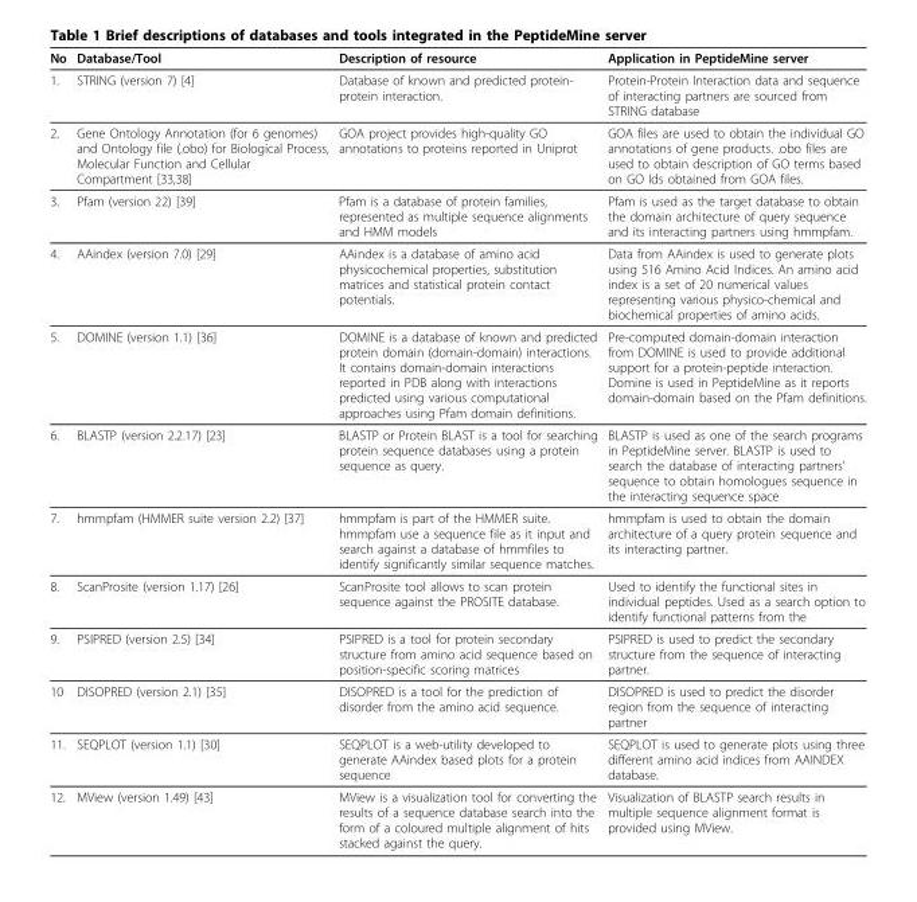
<table><thead><tr><td>No</td><td>Database/Tool</td><td>Description of resource</td><td>Application in PeptideMine server</td></tr></thead><tbody><tr><td>1.</td><td>STRING (version 7) [4]</td><td>Database of known and predicted protein- protein interaction.</td><td>Protein-Protein Interaction data and sequence of interacting partners are sourced from STRING database</td></tr><tr><td>2.</td><td>Gene Ontology Annotation (for 6 genomes) and Ontology file (.obo) for Biological Process, Molecular Function and Cellular Compartment [33,38]</td><td>GOA project provides high-quality GO annotations to proteins reported in Uniprot</td><td>GOA files are used to obtain the individual GO annotations of gene products. .obo files are used to obtain description of GO terms based on GO Ids obtained from GOA files.</td></tr><tr><td>3.</td><td>Pfam (version 22) [39]</td><td>Pfam is a database of protein families, represented as multiple sequence alignments and HMM models</td><td>Pfam is used as the target database to obtain the domain architecture of query sequence and its interacting partners using hmmpfam.</td></tr><tr><td>4.</td><td>AAindex (version 7.0) [29]</td><td>AAindex is a database of amino acid physicochemical properties, substitution matrices and statistical protein contact potentials.</td><td>Data from AAindex is used to generate plots using 516 Amino Acid Indices. An amino acid index is a set of 20 numerical values representing various physico-chemical and biochemical properties of amino acids.</td></tr><tr><td>5.</td><td>DOMINE (version 1.1) [36]</td><td>DOMINE is a database of known and predicted protein domain (domain-domain) interactions. It contains domain-domain interactions reported in PDB along with interactions predicted using various computational approaches using Pfam domain definitions.</td><td>Pre-computed domain-domain interaction from DOMINE is used to provide additional support for a protein-peptide interaction. Domine is used in PeptideMine as it reports domain-domain based on the Pfam definitions.</td></tr><tr><td>6.</td><td>BLASTP (version 2.2.17) [23]</td><td>BLASTP or Protein BLAST is a tool for searching protein sequence databases using a protein sequence as query.</td><td>BLASTP is used as one of the search programs in PeptideMine server. BLASTP is used to search the database of interacting partners’ sequence to obtain homologues sequence in the interacting sequence space</td></tr><tr><td>7.</td><td>hmmpfam (HMMER suite version 2.2) [37]</td><td>hmmpfam is part of the HMMER suite. hmmpfam use a sequence file as it input and search against a database of hmmfiles to identify significantly similar sequence matches.</td><td>hmmpfam is used to obtain the domain architecture of a query protein sequence and its interacting partner.</td></tr><tr><td>8.</td><td>ScanProsite (version 1.17) [26]</td><td>ScanProsite tool allows to scan protein sequence against the PROSITE database.</td><td>Used to identify the functional sites in individual peptides. Used as a search option to identify functional patterns from the</td></tr><tr><td>9.</td><td>PSIPRED (version 2.5) [34]</td><td>PSIPRED is a tool for protein secondary structure from amino acid sequence based on position-specific scoring matrices</td><td>PSIPRED is used to predict the secondary structure from the sequence of interacting partner.</td></tr><tr><td>10</td><td>DISOPRED (version 2.1) [35]</td><td>DISOPRED is a tool for the prediction of disorder from the amino acid sequence.</td><td>DISOPRED is used to predict the disorder region from the sequence of interacting partner</td></tr><tr><td>11.</td><td>SEQPLOT (version 1.1) [30]</td><td>SEQPLOT is a web-utility developed to generate AAindex based plots for a protein sequence</td><td>SEQPLOT is used to generate plots using three different amino acid indices from AAINDEX database.</td></tr><tr><td>12.</td><td>MView (version 1.49) [43]</td><td>MView is a visualization tool for converting the results of a sequence database search into the form of a coloured multiple alignment of hits stacked against the query.</td><td>Visualization of BLASTP search results in multiple sequence alignment format is provided using MView.</td></tr></tbody></table>